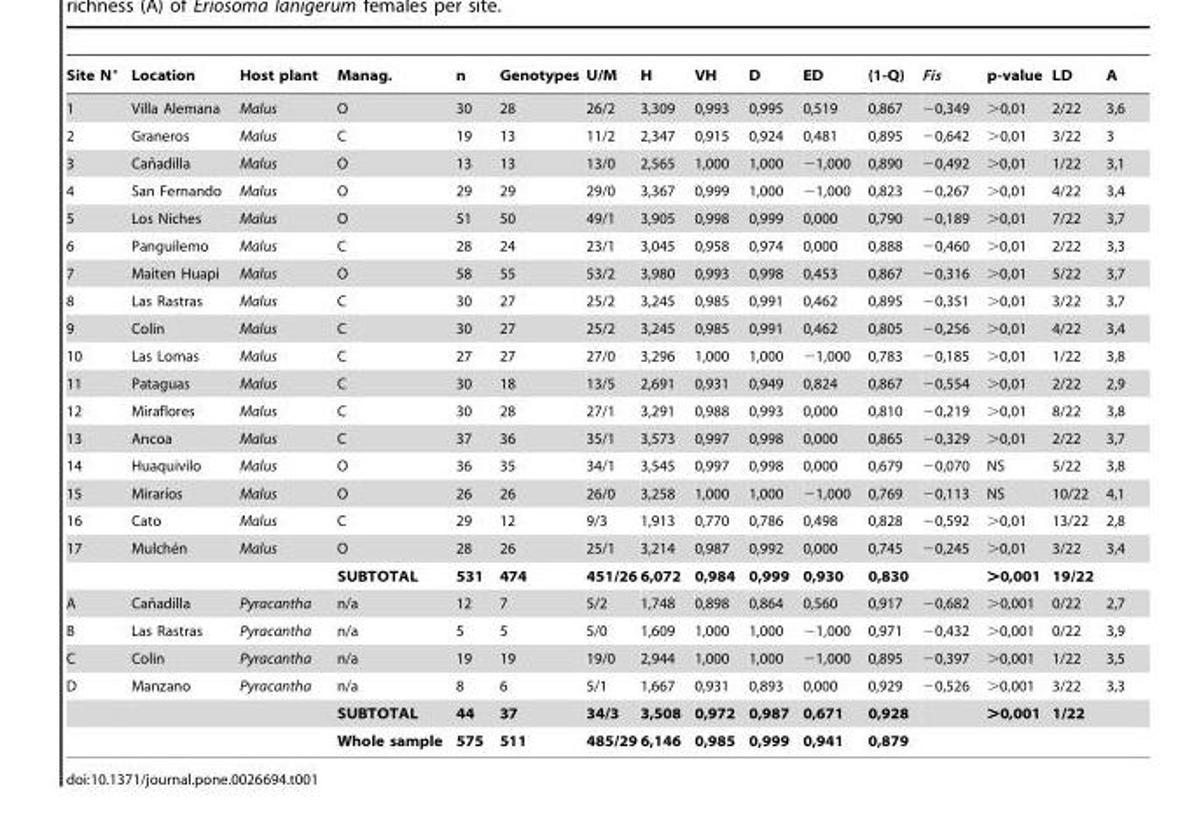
<table><thead><tr><td>Site N°</td><td>Location</td><td>Host plant</td><td>Manag.</td><td>n</td><td>Genotypes</td><td>U/M</td><td>H</td><td>VH</td><td>D</td><td>ED</td><td>(1-Q)</td><td>Fis</td><td>p-value</td><td>LD</td><td>A</td></tr></thead><tbody><tr><td>1</td><td>Villa Alemana</td><td>Malus</td><td>O</td><td>30</td><td>28</td><td>26/2</td><td>3,309</td><td>0,993</td><td>0,995</td><td>0,519</td><td>0,867</td><td>−0,349</td><td>&gt;0,01</td><td>2/22</td><td>3,6</td></tr><tr><td>2</td><td>Graneros</td><td>Malus</td><td>C</td><td>19</td><td>13</td><td>11/2</td><td>2,347</td><td>0,915</td><td>0,924</td><td>0,481</td><td>0,895</td><td>−0,642</td><td>&gt;0,01</td><td>3/22</td><td>3</td></tr><tr><td>3</td><td>Can˜adilla</td><td>Malus</td><td>O</td><td>13</td><td>13</td><td>13/0</td><td>2,565</td><td>1,000</td><td>1,000</td><td>−1,000</td><td>0,890</td><td>−0,492</td><td>&gt;0,01</td><td>1/22</td><td>3,1</td></tr><tr><td>4</td><td>San Fernando</td><td>Malus</td><td>O</td><td>29</td><td>29</td><td>29/0</td><td>3,367</td><td>0,999</td><td>1,000</td><td>−1,000</td><td>0,823</td><td>−0,267</td><td>&gt;0,01</td><td>4/22</td><td>3,4</td></tr><tr><td>5</td><td>Los Niches</td><td>Malus</td><td>O</td><td>51</td><td>50</td><td>49/1</td><td>3,905</td><td>0,998</td><td>0,999</td><td>0,000</td><td>0,790</td><td>−0,189</td><td>&gt;0,01</td><td>7/22</td><td>3,7</td></tr><tr><td>6</td><td>Panguilemo</td><td>Malus</td><td>C</td><td>28</td><td>24</td><td>23/1</td><td>3,045</td><td>0,958</td><td>0,974</td><td>0,000</td><td>0,888</td><td>−0,460</td><td>&gt;0,01</td><td>2/22</td><td>3,3</td></tr><tr><td>7</td><td>Maiten Huapi</td><td>Malus</td><td>O</td><td>58</td><td>55</td><td>53/2</td><td>3,980</td><td>0,993</td><td>0,998</td><td>0,453</td><td>0,867</td><td>−0,316</td><td>&gt;0,01</td><td>5/22</td><td>3,7</td></tr><tr><td>8</td><td>Las Rastras</td><td>Malus</td><td>C</td><td>30</td><td>27</td><td>25/2</td><td>3,245</td><td>0,985</td><td>0,991</td><td>0,462</td><td>0,895</td><td>−0,351</td><td>&gt;0,01</td><td>3/22</td><td>3,7</td></tr><tr><td>9</td><td>Colin</td><td>Malus</td><td>C</td><td>30</td><td>27</td><td>25/2</td><td>3,245</td><td>0,985</td><td>0,991</td><td>0,462</td><td>0,805</td><td>−0,256</td><td>&gt;0,01</td><td>4/22</td><td>3,4</td></tr><tr><td>10</td><td>Las Lomas</td><td>Malus</td><td>C</td><td>27</td><td>27</td><td>27/0</td><td>3,296</td><td>1,000</td><td>1,000</td><td>−1,000</td><td>0,783</td><td>−0,185</td><td>&gt;0,01</td><td>1/22</td><td>3,8</td></tr><tr><td>11</td><td>Pataguas</td><td>Malus</td><td>C</td><td>30</td><td>18</td><td>13/5</td><td>2,691</td><td>0,931</td><td>0,949</td><td>0,824</td><td>0,867</td><td>−0,554</td><td>&gt;0,01</td><td>2/22</td><td>2,9</td></tr><tr><td>12</td><td>Miraflores</td><td>Malus</td><td>C</td><td>30</td><td>28</td><td>27/1</td><td>3,291</td><td>0,988</td><td>0,993</td><td>0,000</td><td>0,810</td><td>−0,219</td><td>&gt;0,01</td><td>8/22</td><td>3,8</td></tr><tr><td>13</td><td>Ancoa</td><td>Malus</td><td>C</td><td>37</td><td>36</td><td>35/1</td><td>3,573</td><td>0,997</td><td>0,998</td><td>0,000</td><td>0,865</td><td>−0,329</td><td>&gt;0,01</td><td>2/22</td><td>3,7</td></tr><tr><td>14</td><td>Huaquivilo</td><td>Malus</td><td>O</td><td>36</td><td>35</td><td>34/1</td><td>3,545</td><td>0,997</td><td>0,998</td><td>0,000</td><td>0,679</td><td>−0,070</td><td>NS</td><td>5/22</td><td>3,8</td></tr><tr><td>15</td><td>Mirarı´os</td><td>Malus</td><td>O</td><td>26</td><td>26</td><td>26/0</td><td>3,258</td><td>1,000</td><td>1,000</td><td>−1,000</td><td>0,769</td><td>−0,113</td><td>NS</td><td>10/22</td><td>4,1</td></tr><tr><td>16</td><td>Cato</td><td>Malus</td><td>C</td><td>29</td><td>12</td><td>9/3</td><td>1,913</td><td>0,770</td><td>0,786</td><td>0,498</td><td>0,828</td><td>−0,592</td><td>&gt;0,01</td><td>13/22</td><td>2,8</td></tr><tr><td rowspan="2">17</td><td>Mulche´n</td><td>Malus</td><td>O</td><td>28</td><td>26</td><td>25/1</td><td>3,214</td><td>0,987</td><td>0,992</td><td>0,000</td><td>0,745</td><td>−0,245</td><td>&gt;0,01</td><td>3/22</td><td>3,4</td></tr><tr><td></td><td></td><td>SUBTOTAL</td><td>531</td><td>474</td><td>451/26</td><td>6,072</td><td>0,984</td><td>0,999</td><td>0,930</td><td>0,830</td><td></td><td>&gt;0,001</td><td>19/22</td><td></td></tr><tr><td>A</td><td>Can˜adilla</td><td>Pyracantha</td><td>n/a</td><td>12</td><td>7</td><td>5/2</td><td>1,748</td><td>0,898</td><td>0,864</td><td>0,560</td><td>0,917</td><td>−0,682</td><td>&gt;0,001</td><td>0/22</td><td>2,7</td></tr><tr><td>B</td><td>Las Rastras</td><td>Pyracantha</td><td>n/a</td><td>5</td><td>5</td><td>5/0</td><td>1,609</td><td>1,000</td><td>1,000</td><td>−1,000</td><td>0,971</td><td>−0,432</td><td>&gt;0,001</td><td>0/22</td><td>3,9</td></tr><tr><td>C</td><td>Colin</td><td>Pyracantha</td><td>n/a</td><td>19</td><td>19</td><td>19/0</td><td>2,944</td><td>1,000</td><td>1,000</td><td>−1,000</td><td>0,895</td><td>−0,397</td><td>&gt;0,001</td><td>1/22</td><td>3,5</td></tr><tr><td rowspan="3">D</td><td>Manzano</td><td>Pyracantha</td><td>n/a</td><td>8</td><td>6</td><td>5/1</td><td>1,667</td><td>0,931</td><td>0,893</td><td>0,000</td><td>0,929</td><td>−0,526</td><td>&gt;0,001</td><td>3/22</td><td>3,3</td></tr><tr><td></td><td></td><td>SUBTOTAL</td><td>44</td><td>37</td><td>34/3</td><td>3,508</td><td>0,972</td><td>0,987</td><td>0,671</td><td>0,928</td><td></td><td>&gt;0,001</td><td>1/22</td><td></td></tr><tr><td></td><td></td><td>Whole sample</td><td>575</td><td>511</td><td>485/29</td><td>6,146</td><td>0,985</td><td>0,999</td><td>0,941</td><td>0,879</td><td></td><td></td><td></td><td></td></tr></tbody></table>